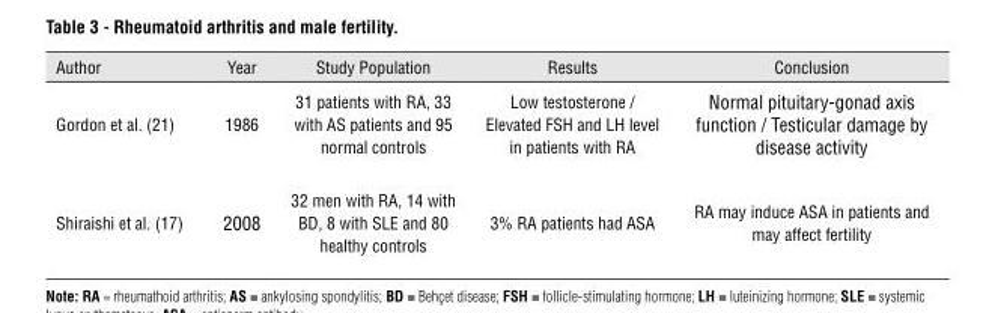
<table><thead><tr><td>Author</td><td>Year</td><td>Study Population</td><td>Results</td><td>Conclusion</td></tr></thead><tbody><tr><td>Gordon et al. (21)</td><td>1986</td><td>31 patients with RA, 33 with AS patients and 95 normal controls</td><td>Low testosterone / Elevated FSH and LH level in patients with RA</td><td>Normal pituitary-gonad axis function / Testicular damage by disease activity</td></tr><tr><td>Shiraishi et al. (17)</td><td>2008</td><td>32 men with RA, 14 with BD, 8 with SLE and 80 healthy controls</td><td>3% RA patients had ASA</td><td>RA may induce ASA in patients and may affect fertility</td></tr></tbody></table>